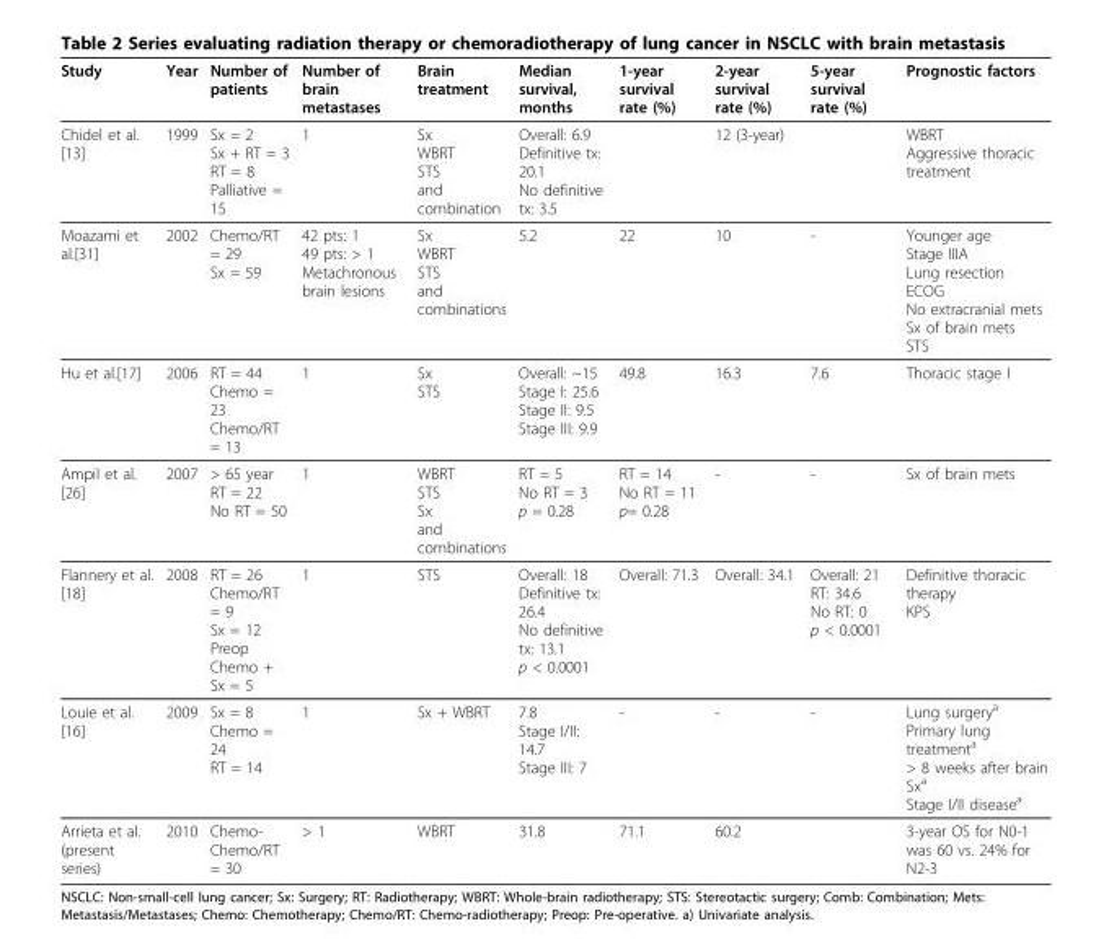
<table><thead><tr><td>Study</td><td>Year</td><td>Number of patients</td><td>Number of brain metastases</td><td>Brain treatment</td><td>Median survival, months</td><td>1-year survival rate (%)</td><td>2-year survival rate (%)</td><td>5-year survival rate (%)</td><td>Prognostic factors</td></tr></thead><tbody><tr><td>Chidel et al. [13]</td><td>1999</td><td>Sx = 2 Sx + RT = 3 RT = 8 Palliative = 15</td><td>1</td><td>Sx WBRT STS and combination</td><td>Overall: 6.9 Definitive tx: 20.1 No definitive tx: 3.5</td><td></td><td>12 (3-year)</td><td></td><td>WBRT Aggressive thoracic treatment</td></tr><tr><td>Moazami et al.[31]</td><td>2002</td><td>Chemo/RT = 29 Sx = 59</td><td>42 pts: 1 49 pts: &gt; 1 Metachronous brain lesions</td><td>Sx WBRT STS and combinations</td><td>5.2</td><td>22</td><td>10</td><td>-</td><td>Younger age Stage IIIA Lung resection ECOG No extracranial mets Sx of brain mets STS</td></tr><tr><td>Hu et al.[17]</td><td>2006</td><td>RT = 44 Chemo = 23 Chemo/RT = 13</td><td>1</td><td>Sx STS</td><td>Overall: ~15 Stage I: 25.6 Stage II: 9.5 Stage III: 9.9</td><td>49.8</td><td>16.3</td><td>7.6</td><td>Thoracic stage I</td></tr><tr><td>Ampil et al. [26]</td><td>2007</td><td>&gt; 65 year RT = 22 No RT = 50</td><td>1</td><td>WBRT STS Sx and combinations</td><td>RT = 5 No RT = 3 p = 0.28</td><td>RT = 14 No RT = 11 p= 0.28</td><td>-</td><td>-</td><td>Sx of brain mets</td></tr><tr><td>Flannery et al. [18]</td><td>2008</td><td>RT = 26 Chemo/RT = 9 Sx = 12 Preop Chemo + Sx = 5</td><td>1</td><td>STS</td><td>Overall: 18 Definitive tx: 26.4 No definitive tx: 13.1 p &lt; 0.0001</td><td>Overall: 71.3</td><td>Overall: 34.1</td><td>Overall: 21 RT: 34.6 No RT: 0 p &lt; 0.0001</td><td>Definitive thoracic therapy KPS</td></tr><tr><td>Louie et al. [16]</td><td>2009</td><td>Sx = 8 Chemo = 24 RT = 14</td><td>1</td><td>Sx + WBRT</td><td>7.8 Stage I/II: 14.7 Stage III: 7</td><td>-</td><td>-</td><td>-</td><td>Lung surgery<sup>a</sup> Primary lung treatment<sup>a</sup> &gt; 8 weeks after brain Sx<sup>a</sup> Stage I/II disease<sup>a</sup></td></tr><tr><td>Arrieta et al. (present series)</td><td>2010</td><td>Chemo- Chemo/RT = 30</td><td>&gt; 1</td><td>WBRT</td><td>31.8</td><td>71.1</td><td>60.2</td><td></td><td>3-year OS for N0-1 was 60 vs. 24% for N2-3</td></tr></tbody></table>